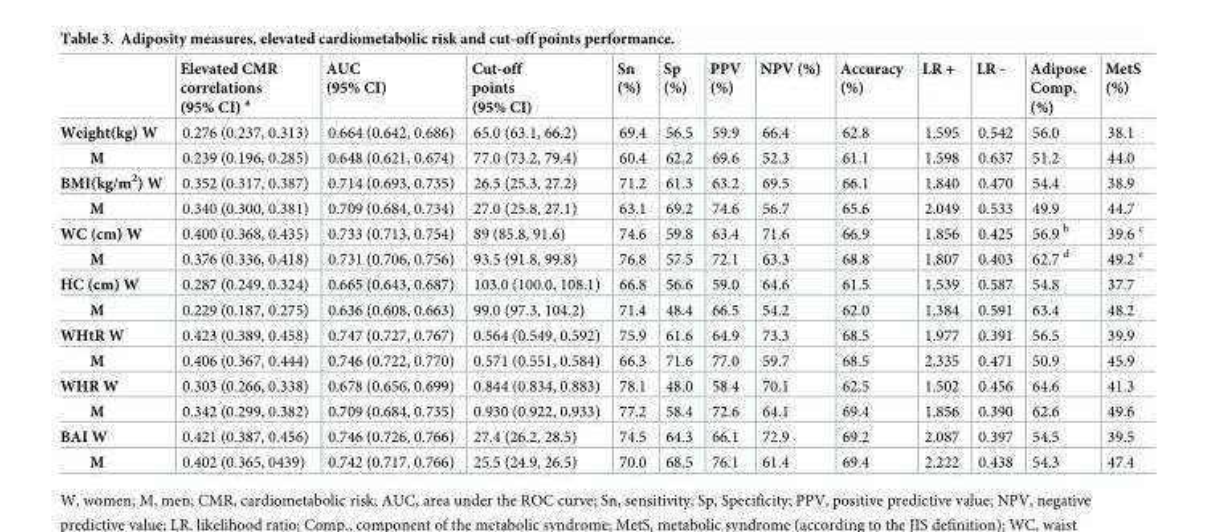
<table><thead><tr><td></td><td>Elevated CMR correlations (95% CI) <sup>a</sup></td><td>AUC (95% CI)</td><td>Cut-off points (95% CI)</td><td>Sn (%)</td><td>Sp (%)</td><td>PPV (%)</td><td>NPV (%)</td><td>Accuracy (%)</td><td>LR +</td><td>LR -</td><td>Adipose Comp. (%)</td><td>MetS (%)</td></tr></thead><tbody><tr><td>Weight(kg) W</td><td>0.276 (0.237, 0.313)</td><td>0.664 (0.642, 0.686)</td><td>65.0 (63.1, 66.2)</td><td>69.4</td><td>56.5</td><td>59.9</td><td>66.4</td><td>62.8</td><td>1.595</td><td>0.542</td><td>56.0</td><td>38.1</td></tr><tr><td>M</td><td>0.239 (0.196, 0.285)</td><td>0.648 (0.621, 0.674)</td><td>77.0 (73.2, 79.4)</td><td>60.4</td><td>62.2</td><td>69.6</td><td>52.3</td><td>61.1</td><td>1.598</td><td>0.637</td><td>51.2</td><td>44.0</td></tr><tr><td>BMI(kg/m<sup>2</sup>) W</td><td>0.352 (0.317, 0.387)</td><td>0.714 (0.693, 0.735)</td><td>26.5 (25.3, 27.2)</td><td>71.2</td><td>61.3</td><td>63.2</td><td>69.5</td><td>66.1</td><td>1.840</td><td>0.470</td><td>54.4</td><td>38.9</td></tr><tr><td>M</td><td>0.340 (0.300, 0.381)</td><td>0.709 (0.684, 0.734)</td><td>27.0 (25.8, 27.1)</td><td>63.1</td><td>69.2</td><td>74.6</td><td>56.7</td><td>65.6</td><td>2.049</td><td>0.533</td><td>49.9</td><td>44.7</td></tr><tr><td>WC (cm) W</td><td>0.400 (0.368, 0.435)</td><td>0.733 (0.713, 0.754)</td><td>89 (85.8, 91.6)</td><td>74.6</td><td>59.8</td><td>63.4</td><td>71.6</td><td>66.9</td><td>1.856</td><td>0.425</td><td>56.9 <sup>b</sup></td><td>39.6 <sup>c</sup></td></tr><tr><td>M</td><td>0.376 (0.336, 0.418)</td><td>0.731 (0.706, 0.756)</td><td>93.5 (91.8, 99.8)</td><td>76.8</td><td>57.5</td><td>72.1</td><td>63.3</td><td>68.8</td><td>1.807</td><td>0.403</td><td>62.7 <sup>d</sup></td><td>49.2 <sup>e</sup></td></tr><tr><td>HC (cm) W</td><td>0.287 (0.249, 0.324)</td><td>0.665 (0.643, 0.687)</td><td>103.0 (100.0, 108.1)</td><td>66.8</td><td>56.6</td><td>59.0</td><td>64.6</td><td>61.5</td><td>1.539</td><td>0.587</td><td>54.8</td><td>37.7</td></tr><tr><td>M</td><td>0.229 (0.187, 0.275)</td><td>0.636 (0.608, 0.663)</td><td>99.0 (97.3, 104.2)</td><td>71.4</td><td>48.4</td><td>66.5</td><td>54.2</td><td>62.0</td><td>1.384</td><td>0.591</td><td>63.4</td><td>48.2</td></tr><tr><td>WHtR W</td><td>0.423 (0.389, 0.458)</td><td>0.747 (0.727, 0.767)</td><td>0.564 (0.549, 0.592)</td><td>75.9</td><td>61.6</td><td>64.9</td><td>73.3</td><td>68.5</td><td>1.977</td><td>0.391</td><td>56.5</td><td>39.9</td></tr><tr><td>M</td><td>0.406 (0.367, 0.444)</td><td>0.746 (0.722, 0.770)</td><td>0.571 (0.551, 0.584)</td><td>66.3</td><td>71.6</td><td>77.0</td><td>59.7</td><td>68.5</td><td>2.335</td><td>0.471</td><td>50.9</td><td>45.9</td></tr><tr><td>WHR W</td><td>0.303 (0.266, 0.338)</td><td>0.678 (0.656, 0.699)</td><td>0.844 (0.834, 0.883)</td><td>78.1</td><td>48.0</td><td>58.4</td><td>70.1</td><td>62.5</td><td>1.502</td><td>0.456</td><td>64.6</td><td>41.3</td></tr><tr><td>M</td><td>0.342 (0.299, 0.382)</td><td>0.709 (0.684, 0.735)</td><td>0.930 (0.922, 0.933)</td><td>77.2</td><td>58.4</td><td>72.6</td><td>64.1</td><td>69.4</td><td>1.856</td><td>0.390</td><td>62.6</td><td>49.6</td></tr><tr><td>BAI W</td><td>0.421 (0.387, 0.456)</td><td>0.746 (0.726, 0.766)</td><td>27.4 (26.2, 28.5)</td><td>74.5</td><td>64.3</td><td>66.1</td><td>72.9</td><td>69.2</td><td>2.087</td><td>0.397</td><td>54.5</td><td>39.5</td></tr><tr><td>M</td><td>0.402 (0.365, 0439)</td><td>0.742 (0.717, 0.766)</td><td>25.5 (24.9, 26.5)</td><td>70.0</td><td>68.5</td><td>76.1</td><td>61.4</td><td>69.4</td><td>2.222</td><td>0.438</td><td>54.3</td><td>47.4</td></tr></tbody></table>